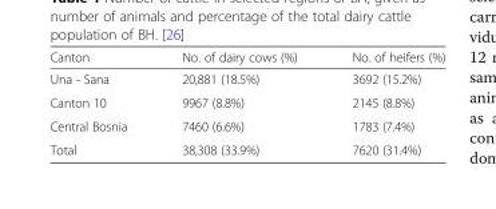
<table><thead><tr><td>Canton</td><td>No. of dairy cows (%)</td><td>No. of heifers (%)</td></tr></thead><tbody><tr><td>Una - Sana</td><td>20,881 (18.5%)</td><td>3692 (15.2%)</td></tr><tr><td>Canton 10</td><td>9967 (8.8%)</td><td>2145 (8.8%)</td></tr><tr><td>Central Bosnia</td><td>7460 (6.6%)</td><td>1783 (7.4%)</td></tr><tr><td>Total</td><td>38,308 (33.9%)</td><td>7620 (31.4%)</td></tr></tbody></table>